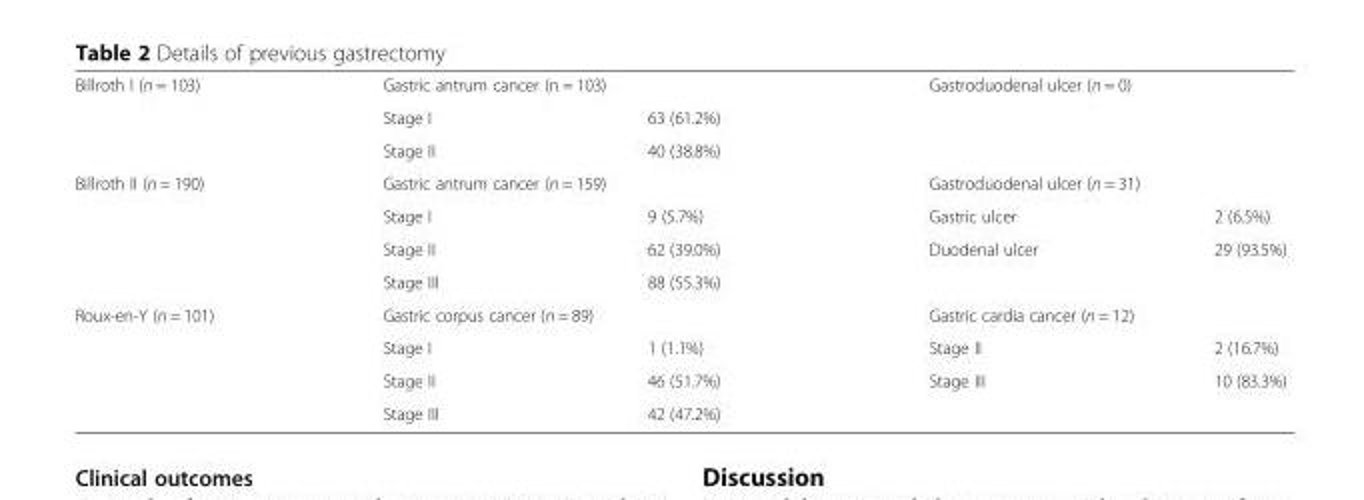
<table><tbody><tr><td rowspan="3">Billroth I (n = 103)</td><td colspan="2">Gastric antrum cancer (n = 103)</td><td colspan="2">Gastroduodenal ulcer (n = 0)</td></tr><tr><td>Stage I</td><td>63 (61.2%)</td><td colspan="2"></td></tr><tr><td>Stage II</td><td>40 (38.8%)</td><td colspan="2"></td></tr><tr><td rowspan="4">Billroth II (n = 190)</td><td colspan="2">Gastric antrum cancer (n = 159)</td><td colspan="2">Gastroduodenal ulcer (n = 31)</td></tr><tr><td>Stage I</td><td>9 (5.7%)</td><td>Gastric ulcer</td><td>2 (6.5%)</td></tr><tr><td>Stage II</td><td>62 (39.0%)</td><td>Duodenal ulcer</td><td>29 (93.5%)</td></tr><tr><td>Stage III</td><td>88 (55.3%)</td><td colspan="2"></td></tr><tr><td rowspan="4">Roux-en-Y (n = 101)</td><td colspan="2">Gastric corpus cancer (n = 89)</td><td colspan="2">Gastric cardia cancer (n = 12)</td></tr><tr><td>Stage I</td><td>1 (1.1%)</td><td>Stage II</td><td>2 (16.7%)</td></tr><tr><td>Stage II</td><td>46 (51.7%)</td><td>Stage III</td><td>10 (83.3%)</td></tr><tr><td>Stage III</td><td>42 (47.2%)</td><td></td><td></td></tr></tbody></table>